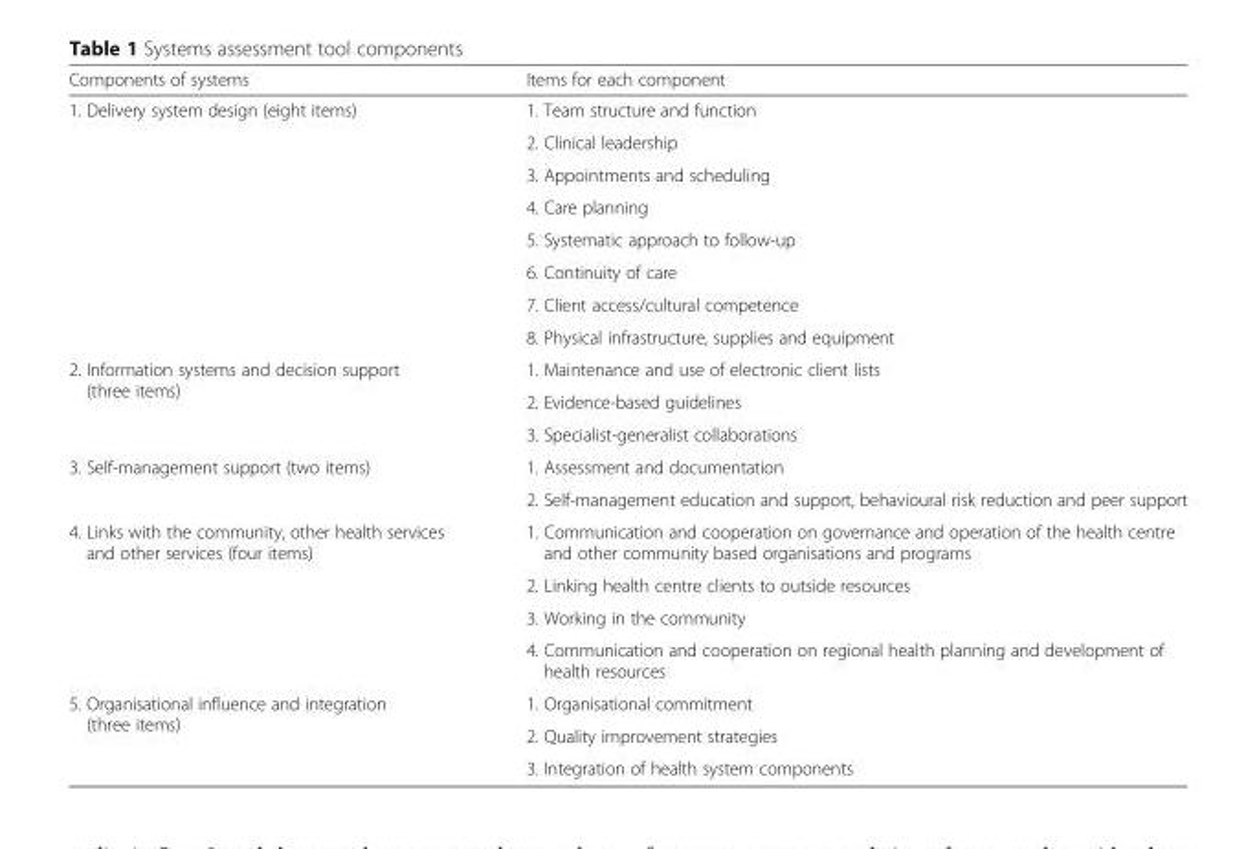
<table><thead><tr><td>Components of systems</td><td>Items for each component</td></tr></thead><tbody><tr><td rowspan="8">1. Delivery system design (eight items)</td><td>1. Team structure and function</td></tr><tr><td>2. Clinical leadership</td></tr><tr><td>3. Appointments and scheduling</td></tr><tr><td>4. Care planning</td></tr><tr><td>5. Systematic approach to follow-up</td></tr><tr><td>6. Continuity of care</td></tr><tr><td>7. Client access/cultural competence</td></tr><tr><td>8. Physical infrastructure, supplies and equipment</td></tr><tr><td rowspan="3">2. Information systems and decision support (three items)</td><td>1. Maintenance and use of electronic client lists</td></tr><tr><td>2. Evidence-based guidelines</td></tr><tr><td>3. Specialist-generalist collaborations</td></tr><tr><td rowspan="2">3. Self-management support (two items)</td><td>1. Assessment and documentation</td></tr><tr><td>2. Self-management education and support, behavioural risk reduction and peer support</td></tr><tr><td rowspan="4">4. Links with the community, other health services and other services (four items)</td><td>1. Communication and cooperation on governance and operation of the health centre and other community based organisations and programs</td></tr><tr><td>2. Linking health centre clients to outside resources</td></tr><tr><td>3. Working in the community</td></tr><tr><td>4. Communication and cooperation on regional health planning and development of health resources</td></tr><tr><td rowspan="3">5. Organisational influence and integration (three items)</td><td>1. Organisational commitment</td></tr><tr><td>2. Quality improvement strategies</td></tr><tr><td>3. Integration of health system components</td></tr></tbody></table>